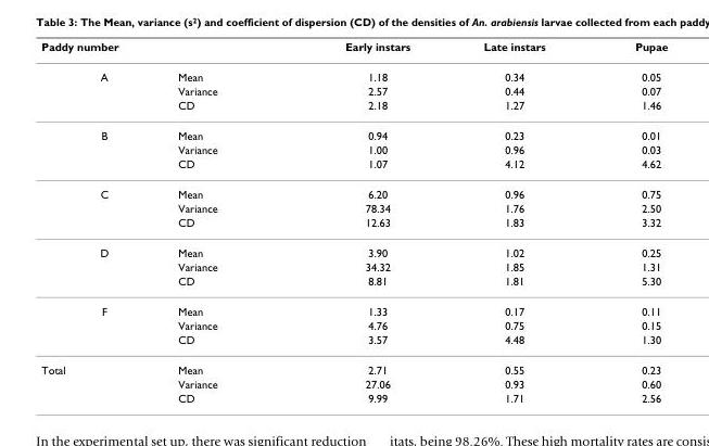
<table><thead><tr><td colspan="2">Paddy number</td><td rowspan="2">Early instars 1.18</td><td rowspan="2">Late instars 0.34</td><td rowspan="2">Pupae 0.05</td></tr><tr><td>A</td><td>Mean</td></tr></thead><tbody><tr><td></td><td>Variance</td><td>2.57</td><td>0.44</td><td>0.07</td></tr><tr><td></td><td>CD</td><td>2.18</td><td>1.27</td><td>1.46</td></tr><tr><td rowspan="3">B</td><td>Mean</td><td>0.94</td><td>0.23</td><td>0.01</td></tr><tr><td>Variance</td><td>1.00</td><td>0.96</td><td>0.03</td></tr><tr><td>CD</td><td>1.07</td><td>4.12</td><td>4.62</td></tr><tr><td rowspan="3">C</td><td>Mean</td><td>6.20</td><td>0.96</td><td>0.75</td></tr><tr><td>Variance</td><td>78.34</td><td>1.76</td><td>2.50</td></tr><tr><td>CD</td><td>12.63</td><td>1.83</td><td>3.32</td></tr><tr><td rowspan="3">D</td><td>Mean</td><td>3.90</td><td>1.02</td><td>0.25</td></tr><tr><td>Variance</td><td>34.32</td><td>1.85</td><td>1.31</td></tr><tr><td>CD</td><td>8.81</td><td>1.81</td><td>5.30</td></tr><tr><td rowspan="3">F</td><td>Mean</td><td>1.33</td><td>0.17</td><td>0.11</td></tr><tr><td>Variance</td><td>4.76</td><td>0.75</td><td>0.15</td></tr><tr><td>CD</td><td>3.57</td><td>4.48</td><td>1.30</td></tr><tr><td rowspan="3">Total</td><td>Mean</td><td>2.71</td><td>0.55</td><td>0.23</td></tr><tr><td>Variance</td><td>27.06</td><td>0.93</td><td>0.60</td></tr><tr><td>CD</td><td>9.99</td><td>1.71</td><td>2.56</td></tr></tbody></table>